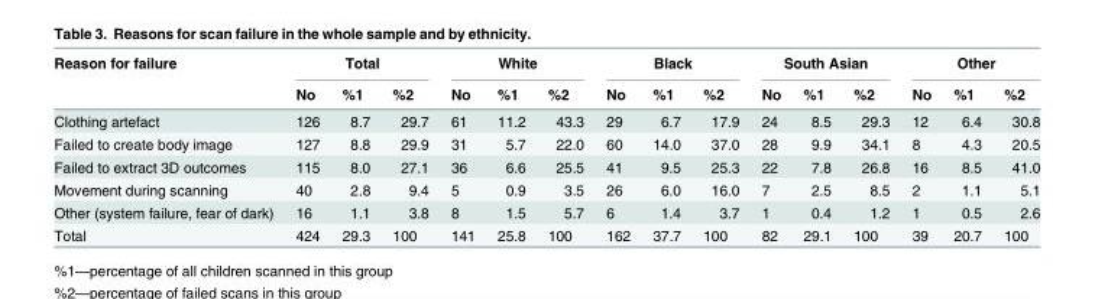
<table><thead><tr><td rowspan="2">Reason for failure</td><td colspan="3">Total</td><td colspan="3">White</td><td colspan="3">Black</td><td colspan="3">South Asian</td><td colspan="3">Other</td></tr><tr><td>No</td><td>%1</td><td>%2</td><td>No</td><td>%1</td><td>%2</td><td>No</td><td>%1</td><td>%2</td><td>No</td><td>%1</td><td>%2</td><td>No</td><td>%1</td><td>%2</td></tr></thead><tbody><tr><td>Clothing artefact</td><td>126</td><td>8.7</td><td>29.7</td><td>61</td><td>11.2</td><td>43.3</td><td>29</td><td>6.7</td><td>17.9</td><td>24</td><td>8.5</td><td>29.3</td><td>12</td><td>6.4</td><td>30.8</td></tr><tr><td>Failed to create body image</td><td>127</td><td>8.8</td><td>29.9</td><td>31</td><td>5.7</td><td>22.0</td><td>60</td><td>14.0</td><td>37.0</td><td>28</td><td>9.9</td><td>34.1</td><td>8</td><td>4.3</td><td>20.5</td></tr><tr><td>Failed to extract 3D outcomes</td><td>115</td><td>8.0</td><td>27.1</td><td>36</td><td>6.6</td><td>25.5</td><td>41</td><td>9.5</td><td>25.3</td><td>22</td><td>7.8</td><td>26.8</td><td>16</td><td>8.5</td><td>41.0</td></tr><tr><td>Movement during scanning</td><td>40</td><td>2.8</td><td>9.4</td><td>5</td><td>0.9</td><td>3.5</td><td>26</td><td>6.0</td><td>16.0</td><td>7</td><td>2.5</td><td>8.5</td><td>2</td><td>1.1</td><td>5.1</td></tr><tr><td>Other (system failure, fear of dark)</td><td>16</td><td>1.1</td><td>3.8</td><td>8</td><td>1.5</td><td>5.7</td><td>6</td><td>1.4</td><td>3.7</td><td>1</td><td>0.4</td><td>1.2</td><td>1</td><td>0.5</td><td>2.6</td></tr><tr><td>Total</td><td>424</td><td>29.3</td><td>100</td><td>141</td><td>25.8</td><td>100</td><td>162</td><td>37.7</td><td>100</td><td>82</td><td>29.1</td><td>100</td><td>39</td><td>20.7</td><td>100</td></tr></tbody></table>